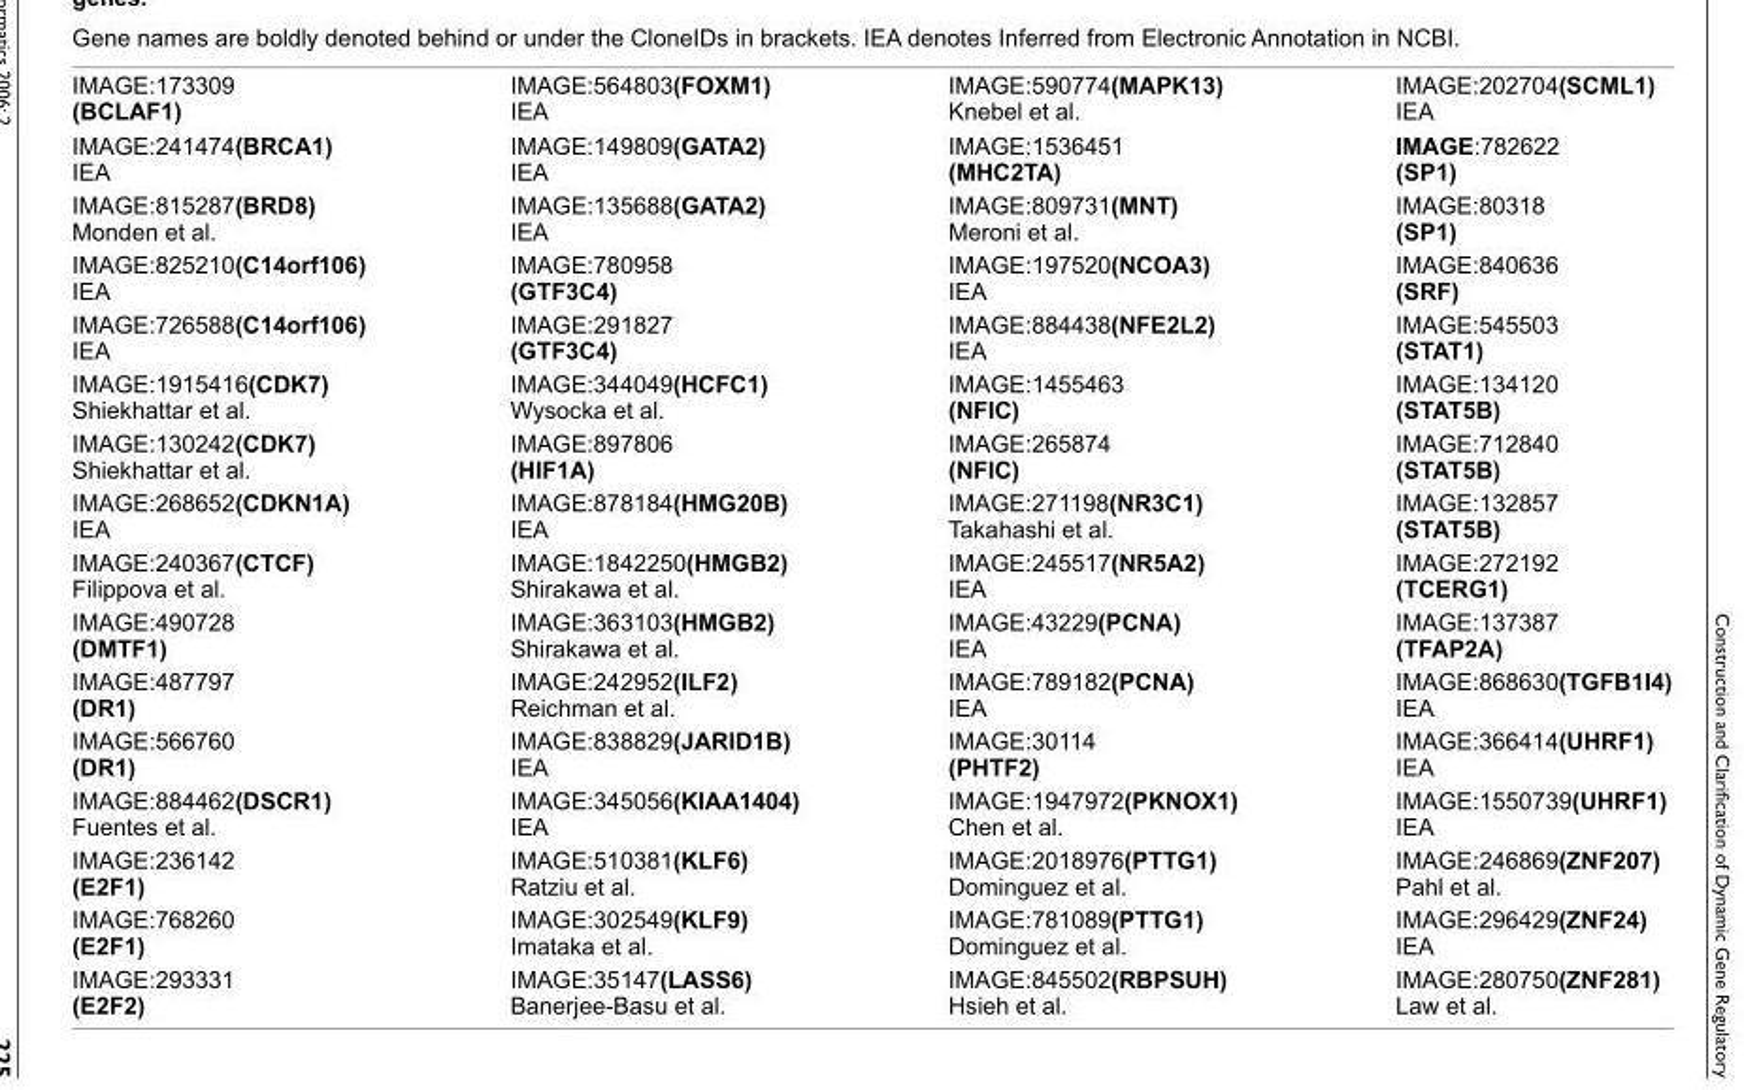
<table><tbody><tr><td>IMAGE:173309 (BCLAF1)</td><td>IMAGE:564803(FOXM1) IEA</td><td>IMAGE:590774(MAPK13) Knebel et al.</td><td>IMAGE:202704(SCML1) IEA</td></tr><tr><td>IMAGE:241474(BRCA1) IEA</td><td>IMAGE:149809(GATA2) IEA</td><td>IMAGE:1536451 (MHC2TA)</td><td>IMAGE:782622 (SP1)</td></tr><tr><td>IMAGE:815287(BRD8) Monden et al.</td><td>IMAGE:135688(GATA2) IEA</td><td>IMAGE:809731(MNT) Meroni et al.</td><td>IMAGE:80318 (SP1)</td></tr><tr><td>IMAGE:825210(C14orf106) IEA</td><td>IMAGE:780958 (GTF3C4)</td><td>IMAGE:197520(NCOA3) IEA</td><td>IMAGE:840636 (SRF)</td></tr><tr><td>IMAGE:726588(C14orf106) IEA</td><td>IMAGE:291827 (GTF3C4)</td><td>IMAGE:884438(NFE2L2) IEA</td><td>IMAGE:545503 (STAT1)</td></tr><tr><td>IMAGE:1915416(CDK7) Shiekhattar et al.</td><td>IMAGE:344049(HCFC1) Wysocka et al.</td><td>IMAGE:1455463 (NFIC)</td><td>IMAGE:134120 (STAT5B)</td></tr><tr><td>IMAGE:130242(CDK7) Shiekhattar et al.</td><td>IMAGE:897806 (HIF1A)</td><td>IMAGE:265874 (NFIC)</td><td>IMAGE:712840 (STAT5B)</td></tr><tr><td>IMAGE:268652(CDKN1A) IEA</td><td>IMAGE:878184(HMG20B) IEA</td><td>IMAGE:271198(NR3C1) Takahashi et al.</td><td>IMAGE:132857 (STAT5B)</td></tr><tr><td>IMAGE:240367(CTCF) Filippova et al.</td><td>IMAGE:1842250(HMGB2) Shirakawa et al.</td><td>IMAGE:245517(NR5A2) IEA</td><td>IMAGE:272192 (TCERG1)</td></tr><tr><td>IMAGE:490728 (DMTF1)</td><td>IMAGE:363103(HMGB2) Shirakawa et al.</td><td>IMAGE:43229(PCNA) IEA</td><td>IMAGE:137387 (TFAP2A)</td></tr><tr><td>IMAGE:487797 (DR1)</td><td>IMAGE:242952(ILF2) Reichman et al.</td><td>IMAGE:789182(PCNA) IEA</td><td>IMAGE:868630(TGFB1I4) IEA</td></tr><tr><td>IMAGE:566760 (DR1)</td><td>IMAGE:838829(JARID1B) IEA</td><td>IMAGE:30114 (PHTF2)</td><td>IMAGE:366414(UHRF1) IEA</td></tr><tr><td>IMAGE:884462(DSCR1) Fuentes et al.</td><td>IMAGE:345056(KIAA1404) IEA</td><td>IMAGE:1947972(PKNOX1) Chen et al.</td><td>IMAGE:1550739(UHRF1) IEA</td></tr><tr><td>IMAGE:236142 (E2F1)</td><td>IMAGE:510381(KLF6) Ratziu et al.</td><td>IMAGE:2018976(PTTG1) Dominguez et al.</td><td>IMAGE:246869(ZNF207) Pahl et al.</td></tr><tr><td>IMAGE:768260 (E2F1)</td><td>IMAGE:302549(KLF9) Imataka et al.</td><td>IMAGE:781089(PTTG1) Dominguez et al.</td><td>IMAGE:296429(ZNF24) IEA</td></tr><tr><td>IMAGE:293331 (E2F2)</td><td>IMAGE:35147(LASS6) Banerjee-Basu et al.</td><td>IMAGE:845502(RBPSUH) Hsieh et al.</td><td>IMAGE:280750(ZNF281) Law et al.</td></tr></tbody></table>